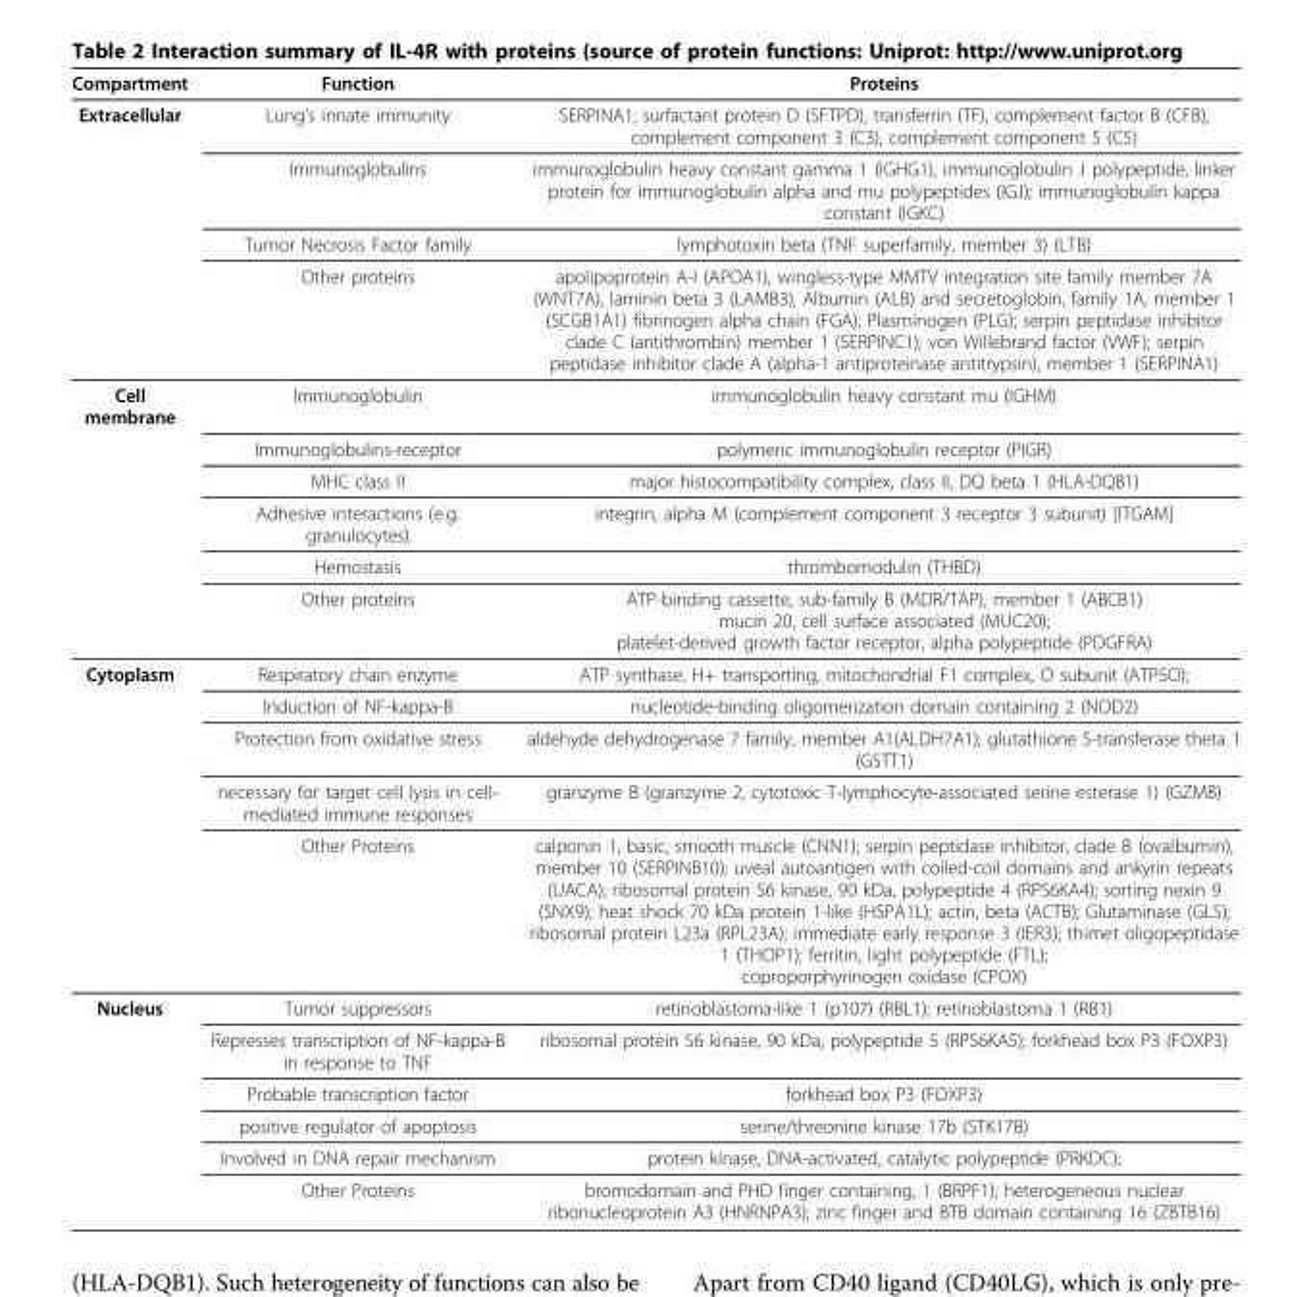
<table><thead><tr><td>Compartment</td><td>Function</td><td>Proteins</td></tr></thead><tbody><tr><td rowspan="4">Extracellular</td><td>Lung’s innate immunity</td><td>SERPINA1; surfactant protein D (SFTPD), transferrin (TF), complement factor B (CFB), complement component 3 (C3), complement component 5 (C5)</td></tr><tr><td>Immunoglobulins</td><td>immunoglobulin heavy constant gamma 1 (IGHG1), immunoglobulin J polypeptide, linker protein for immunoglobulin alpha and mu polypeptides (IGJ); immunoglobulin kappa constant (IGKC)</td></tr><tr><td>Tumor Necrosis Factor family</td><td>lymphotoxin beta (TNF superfamily, member 3) (LTB)</td></tr><tr><td>Other proteins</td><td>apolipoprotein A-I (APOA1), wingless-type MMTV integration site family member 7A (WNT7A), laminin beta 3 (LAMB3), Albumin (ALB) and secretoglobin, family 1A, member 1 (SCGB1A1) fibrinogen alpha chain (FGA); Plasminogen (PLG); serpin peptidase inhibitor clade C (antithrombin) member 1 (SERPINC1); von Willebrand factor (VWF); serpin peptidase inhibitor clade A (alpha-1 antiproteinase antitrypsin), member 1 (SERPINA1)</td></tr><tr><td rowspan="6">Cell membrane</td><td>Immunoglobulin</td><td>immunoglobulin heavy constant mu (IGHM)</td></tr><tr><td>Immunoglobulins-receptor</td><td>polymeric immunoglobulin receptor (PIGR)</td></tr><tr><td>MHC class II</td><td>major histocompatibility complex, class II, DQ beta 1 (HLA-DQB1)</td></tr><tr><td>Adhesive interactions (e.g. granulocytes)</td><td>integrin, alpha M (complement component 3 receptor 3 subunit) [ITGAM]</td></tr><tr><td>Hemostasis</td><td>thrombomodulin (THBD)</td></tr><tr><td>Other proteins</td><td>ATP-binding cassette, sub-family B (MDR/TAP), member 1 (ABCB1) mucin 20, cell surface associated (MUC20); platelet-derived growth factor receptor, alpha polypeptide (PDGFRA)</td></tr><tr><td rowspan="5">Cytoplasm</td><td>Respiratory chain enzyme</td><td>ATP synthase, H+ transporting, mitochondrial F1 complex, O subunit (ATP5O);</td></tr><tr><td>Induction of NF-kappa-B</td><td>nucleotide-binding oligomerization domain containing 2 (NOD2)</td></tr><tr><td>Protection from oxidative stress</td><td>aldehyde dehydrogenase 7 family, member A1(ALDH7A1); glutathione S-transferase theta 1 (GSTT1)</td></tr><tr><td>necessary for target cell lysis in cell- mediated immune responses</td><td>granzyme B (granzyme 2, cytotoxic T-lymphocyte-associated serine esterase 1) (GZMB)</td></tr><tr><td>Other Proteins</td><td>calponin 1, basic, smooth muscle (CNN1); serpin peptidase inhibitor, clade B (ovalbumin), member 10 (SERPINB10); uveal autoantigen with coiled-coil domains and ankyrin repeats (UACA); ribosomal protein S6 kinase, 90 kDa, polypeptide 4 (RPS6KA4); sorting nexin 9 (SNX9); heat shock 70 kDa protein 1-like (HSPA1L); actin, beta (ACTB); Glutaminase (GLS); ribosomal protein L23a (RPL23A); immediate early response 3 (IER3); thimet oligopeptidase 1 (THOP1); ferritin, light polypeptide (FTL); coproporphyrinogen oxidase (CPOX)</td></tr><tr><td rowspan="6">Nucleus</td><td>Tumor suppressors</td><td>retinoblastoma-like 1 (p107) (RBL1); retinoblastoma 1 (RB1)</td></tr><tr><td>Represses transcription of NF-kappa-B in response to TNF</td><td>ribosomal protein S6 kinase, 90 kDa, polypeptide 5 (RPS6KA5); forkhead box P3 (FOXP3)</td></tr><tr><td>Probable transcription factor</td><td>forkhead box P3 (FOXP3)</td></tr><tr><td>positive regulator of apoptosis</td><td>serine/threonine kinase 17b (STK17B)</td></tr><tr><td>Involved in DNA repair mechanism</td><td>protein kinase, DNA-activated, catalytic polypeptide (PRKDC);</td></tr><tr><td>Other Proteins</td><td>bromodomain and PHD finger containing, 1 (BRPF1); heterogeneous nuclear ribonucleoprotein A3 (HNRNPA3); zinc finger and BTB domain containing 16 (ZBTB16)</td></tr></tbody></table>